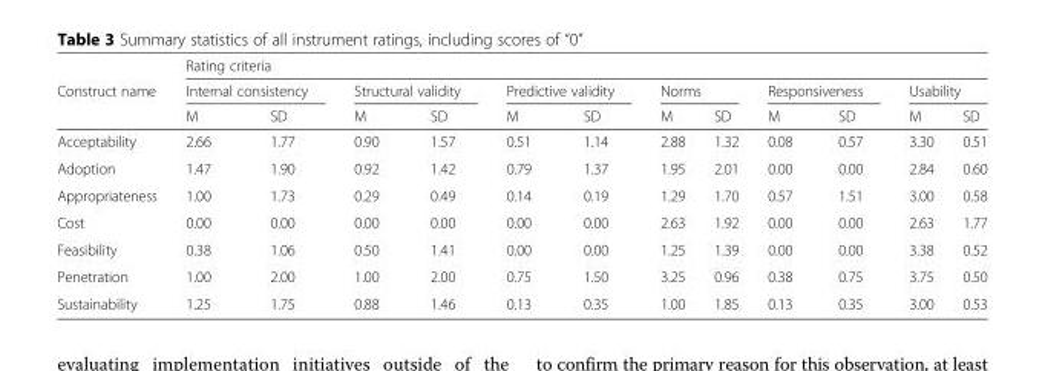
<table><thead><tr><td rowspan="3">Construct name</td><td colspan="12">Rating criteria</td></tr><tr><td colspan="2">Internal consistency</td><td colspan="2">Structural validity</td><td colspan="2">Predictive validity</td><td colspan="2">Norms</td><td colspan="2">Responsiveness</td><td colspan="2">Usability</td></tr><tr><td>M</td><td>SD</td><td>M</td><td>SD</td><td>M</td><td>SD</td><td>M</td><td>SD</td><td>M</td><td>SD</td><td>M</td><td>SD</td></tr></thead><tbody><tr><td>Acceptability</td><td>2.66</td><td>1.77</td><td>0.90</td><td>1.57</td><td>0.51</td><td>1.14</td><td>2.88</td><td>1.32</td><td>0.08</td><td>0.57</td><td>3.30</td><td>0.51</td></tr><tr><td>Adoption</td><td>1.47</td><td>1.90</td><td>0.92</td><td>1.42</td><td>0.79</td><td>1.37</td><td>1.95</td><td>2.01</td><td>0.00</td><td>0.00</td><td>2.84</td><td>0.60</td></tr><tr><td>Appropriateness</td><td>1.00</td><td>1.73</td><td>0.29</td><td>0.49</td><td>0.14</td><td>0.19</td><td>1.29</td><td>1.70</td><td>0.57</td><td>1.51</td><td>3.00</td><td>0.58</td></tr><tr><td>Cost</td><td>0.00</td><td>0.00</td><td>0.00</td><td>0.00</td><td>0.00</td><td>0.00</td><td>2.63</td><td>1.92</td><td>0.00</td><td>0.00</td><td>2.63</td><td>1.77</td></tr><tr><td>Feasibility</td><td>0.38</td><td>1.06</td><td>0.50</td><td>1.41</td><td>0.00</td><td>0.00</td><td>1.25</td><td>1.39</td><td>0.00</td><td>0.00</td><td>3.38</td><td>0.52</td></tr><tr><td>Penetration</td><td>1.00</td><td>2.00</td><td>1.00</td><td>2.00</td><td>0.75</td><td>1.50</td><td>3.25</td><td>0.96</td><td>0.38</td><td>0.75</td><td>3.75</td><td>0.50</td></tr><tr><td>Sustainability</td><td>1.25</td><td>1.75</td><td>0.88</td><td>1.46</td><td>0.13</td><td>0.35</td><td>1.00</td><td>1.85</td><td>0.13</td><td>0.35</td><td>3.00</td><td>0.53</td></tr></tbody></table>